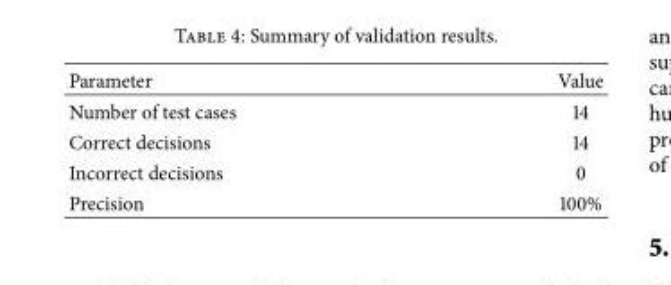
<table><thead><tr><td>Parameter</td><td>Value</td></tr></thead><tbody><tr><td>Number of test cases</td><td>14</td></tr><tr><td>Correct decisions</td><td>14</td></tr><tr><td>Incorrect decisions</td><td>0</td></tr><tr><td>Precision</td><td>100%</td></tr></tbody></table>